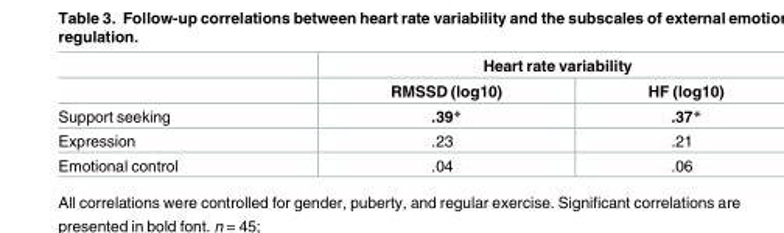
<table><thead><tr><td rowspan="2"></td><td colspan="2">Heart rate variability</td></tr><tr><td>RMSSD (log10)</td><td>HF (log10)</td></tr></thead><tbody><tr><td>Support seeking</td><td>.39*</td><td>.37*</td></tr><tr><td>Expression</td><td>.23</td><td>.21</td></tr><tr><td>Emotional control</td><td>.04</td><td>.06</td></tr></tbody></table>